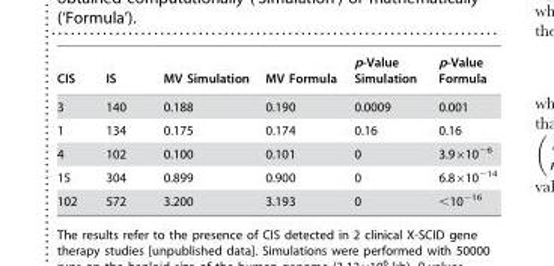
<table><thead><tr><td>CIS</td><td>IS</td><td>MV Simulation</td><td>MV Formula</td><td>p-Value Simulation</td><td>p-Value Formula</td></tr></thead><tbody><tr><td>3</td><td>140</td><td>0.188</td><td>0.190</td><td>0.0009</td><td>0.001</td></tr><tr><td>1</td><td>134</td><td>0.175</td><td>0.174</td><td>0.16</td><td>0.16</td></tr><tr><td>4</td><td>102</td><td>0.100</td><td>0.101</td><td>0</td><td>3.9×10<sup>−6</sup></td></tr><tr><td>15</td><td>304</td><td>0.899</td><td>0.900</td><td>0</td><td>6.8×10<sup>−14</sup></td></tr><tr><td>102</td><td>572</td><td>3.200</td><td>3.193</td><td>0</td><td>&lt;10<sup>−16</sup></td></tr></tbody></table>